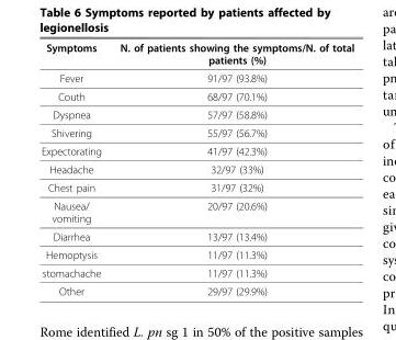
<table><tbody><tr><td>Symptoms</td><td>N. of patients showing the symptoms/N. of total patients (%)</td></tr><tr><td>Fever</td><td>91/97 (93.8%)</td></tr><tr><td>Couth</td><td>68/97 (70.1%)</td></tr><tr><td>Dyspnea</td><td>57/97 (58.8%)</td></tr><tr><td>Shivering</td><td>55/97 (56.7%)</td></tr><tr><td>Expectorating</td><td>41/97 (42.3%)</td></tr><tr><td>Headache</td><td>32/97 (33%)</td></tr><tr><td>Chest pain</td><td>31/97 (32%)</td></tr><tr><td>Nausea/ vomiting</td><td>20/97 (20.6%)</td></tr><tr><td>Diarrhea</td><td>13/97 (13.4%)</td></tr><tr><td>Hemoptysis</td><td>11/97 (11.3%)</td></tr><tr><td>stomachache</td><td>11/97 (11.3%)</td></tr><tr><td>Other</td><td>29/97 (29.9%)</td></tr></tbody></table>